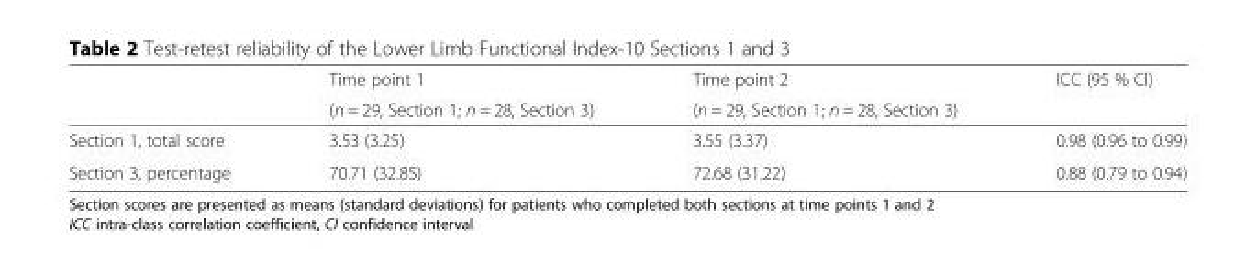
<table><thead><tr><td rowspan="2"></td><td rowspan="2">Time point 1 (n = 29, Section 1; n = 28, Section 3)</td><td rowspan="2">Time point 2 (n = 29, Section 1; n = 28, Section 3)</td><td rowspan="2">ICC (95 % CI)</td></tr><tr></tr></thead><tbody><tr><td>Section 1, total score</td><td>3.53 (3.25)</td><td>3.55 (3.37)</td><td>0.98 (0.96 to 0.99)</td></tr><tr><td>Section 3, percentage</td><td>70.71 (32.85)</td><td>72.68 (31.22)</td><td>0.88 (0.79 to 0.94)</td></tr></tbody></table>